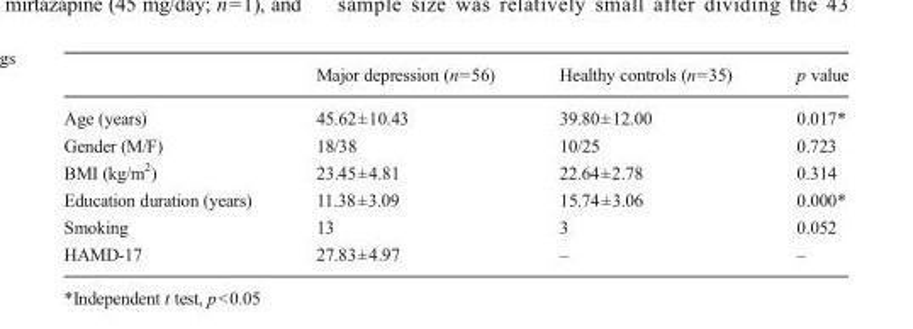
<table><thead><tr><td></td><td>Major depression (n=56)</td><td>Healthy controls (n=35)</td><td>p value</td></tr></thead><tbody><tr><td>Age (years)</td><td>45.62±10.43</td><td>39.80±12.00</td><td>0.017*</td></tr><tr><td>Gender (M/F)</td><td>18/38</td><td>10/25</td><td>0.723</td></tr><tr><td>BMI (kg/m<sup>2</sup>)</td><td>23.45±4.81</td><td>22.64±2.78</td><td>0.314</td></tr><tr><td>Education duration (years)</td><td>11.38±3.09</td><td>15.74±3.06</td><td>0.000*</td></tr><tr><td>Smoking</td><td>13</td><td>3</td><td>0.052</td></tr><tr><td>HAMD-17</td><td>27.83±4.97</td><td>–</td><td>–</td></tr></tbody></table>